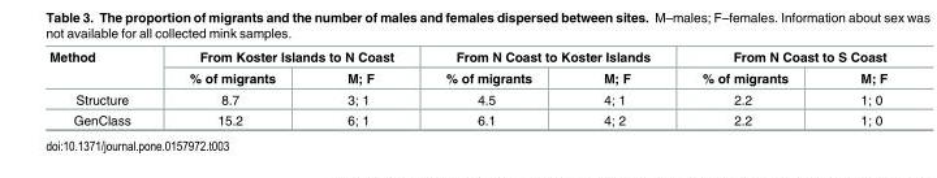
<table><thead><tr><td rowspan="2">Method</td><td colspan="2">From Koster Islands to N Coast</td><td colspan="2">From N Coast to Koster Islands</td><td colspan="2">From N Coast to S Coast</td></tr><tr><td>% of migrants</td><td>M; F</td><td>% of migrants</td><td>M; F</td><td>% of migrants</td><td>M; F</td></tr></thead><tbody><tr><td>Structure</td><td>8.7</td><td>3; 1</td><td>4.5</td><td>4; 1</td><td>2.2</td><td>1; 0</td></tr><tr><td>GenClass</td><td>15.2</td><td>6; 1</td><td>6.1</td><td>4; 2</td><td>2.2</td><td>1; 0</td></tr></tbody></table>